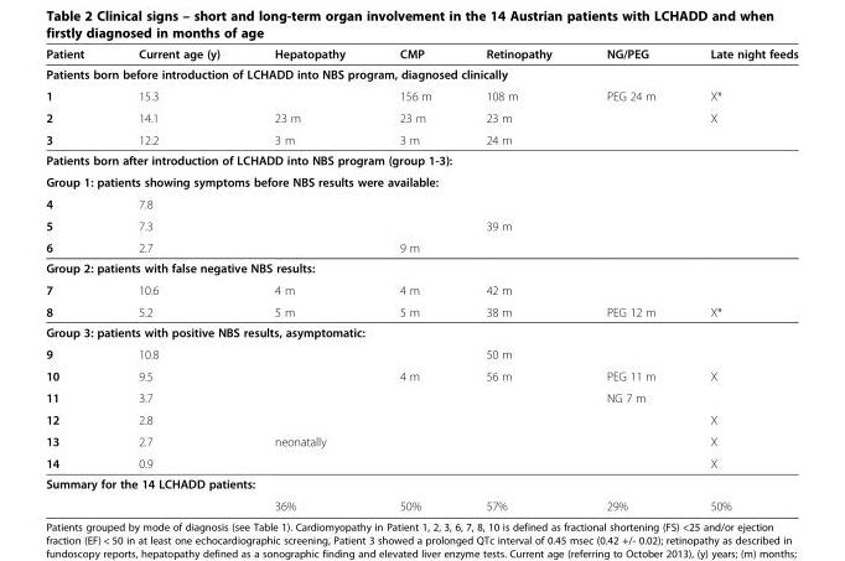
<table><thead><tr><td>Patient</td><td>Current age (y)</td><td>Hepatopathy</td><td>CMP</td><td>Retinopathy</td><td>NG/PEG</td><td>Late night feeds</td></tr></thead><tbody><tr><td colspan="7">Patients born before introduction of LCHADD into NBS program, diagnosed clinically</td></tr><tr><td>1</td><td>15.3</td><td></td><td>156 m</td><td>108 m</td><td>PEG 24 m</td><td>X*</td></tr><tr><td>2</td><td>14.1</td><td>23 m</td><td>23 m</td><td>23 m</td><td></td><td>X</td></tr><tr><td>3</td><td>12.2</td><td>3 m</td><td>3 m</td><td>24 m</td><td></td><td></td></tr><tr><td colspan="7">Patients born after introduction of LCHADD into NBS program (group 1-3):</td></tr><tr><td colspan="7">Group 1: patients showing symptoms before NBS results were available:</td></tr><tr><td>4</td><td>7.8</td><td></td><td></td><td></td><td></td><td></td></tr><tr><td>5</td><td>7.3</td><td></td><td></td><td>39 m</td><td></td><td></td></tr><tr><td>6</td><td>2.7</td><td></td><td>9 m</td><td></td><td></td><td></td></tr><tr><td colspan="7">Group 2: patients with false negative NBS results:</td></tr><tr><td>7</td><td>10.6</td><td>4 m</td><td>4 m</td><td>42 m</td><td></td><td></td></tr><tr><td>8</td><td>5.2</td><td>5 m</td><td>5 m</td><td>38 m</td><td>PEG 12 m</td><td>X*</td></tr><tr><td colspan="7">Group 3: patients with positive NBS results, asymptomatic:</td></tr><tr><td>9</td><td>10.8</td><td></td><td></td><td>50 m</td><td></td><td></td></tr><tr><td>10</td><td>9.5</td><td></td><td>4 m</td><td>56 m</td><td>PEG 11 m</td><td>X</td></tr><tr><td>11</td><td>3.7</td><td></td><td></td><td></td><td>NG 7 m</td><td></td></tr><tr><td>12</td><td>2.8</td><td></td><td></td><td></td><td></td><td>X</td></tr><tr><td>13</td><td>2.7</td><td>neonatally</td><td></td><td></td><td></td><td>X</td></tr><tr><td>14</td><td>0.9</td><td></td><td></td><td></td><td></td><td>X</td></tr><tr><td colspan="7">Summary for the 14 LCHADD patients:</td></tr><tr><td></td><td></td><td>36%</td><td>50%</td><td>57%</td><td>29%</td><td>50%</td></tr></tbody></table>